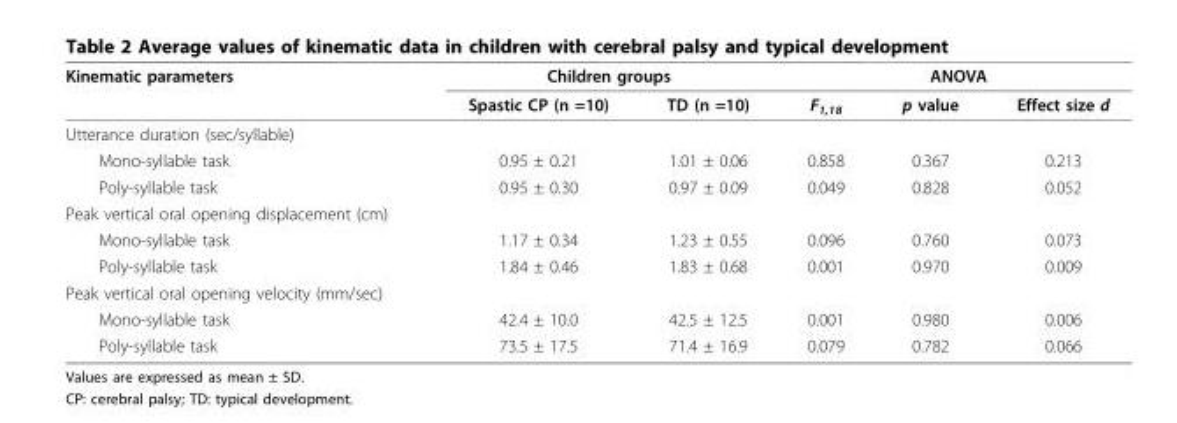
<table><thead><tr><td rowspan="2">Kinematic parameters</td><td colspan="2">Children groups</td><td colspan="3">ANOVA</td></tr><tr><td>Spastic CP (n =10)</td><td>TD (n =10)</td><td>F<sub>1,18</sub></td><td>p value</td><td>Effect size d</td></tr></thead><tbody><tr><td colspan="6">Utterance duration (sec/syllable)</td></tr><tr><td>Mono-syllable task</td><td>0.95 ± 0.21</td><td>1.01 ± 0.06</td><td>0.858</td><td>0.367</td><td>0.213</td></tr><tr><td>Poly-syllable task</td><td>0.95 ± 0.30</td><td>0.97 ± 0.09</td><td>0.049</td><td>0.828</td><td>0.052</td></tr><tr><td colspan="6">Peak vertical oral opening displacement (cm)</td></tr><tr><td>Mono-syllable task</td><td>1.17 ± 0.34</td><td>1.23 ± 0.55</td><td>0.096</td><td>0.760</td><td>0.073</td></tr><tr><td>Poly-syllable task</td><td>1.84 ± 0.46</td><td>1.83 ± 0.68</td><td>0.001</td><td>0.970</td><td>0.009</td></tr><tr><td colspan="6">Peak vertical oral opening velocity (mm/sec)</td></tr><tr><td>Mono-syllable task</td><td>42.4 ± 10.0</td><td>42.5 ± 12.5</td><td>0.001</td><td>0.980</td><td>0.006</td></tr><tr><td>Poly-syllable task</td><td>73.5 ± 17.5</td><td>71.4 ± 16.9</td><td>0.079</td><td>0.782</td><td>0.066</td></tr></tbody></table>